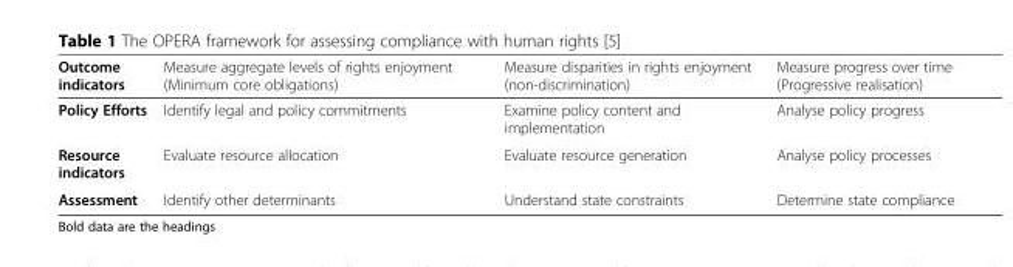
<table><thead><tr><td>Outcome indicators</td><td>Measure aggregate levels of rights enjoyment (Minimum core obligations)</td><td>Measure disparities in rights enjoyment (non-discrimination)</td><td>Measure progress over time (Progressive realisation)</td></tr></thead><tbody><tr><td>Policy Efforts</td><td>Identify legal and policy commitments</td><td>Examine policy content and implementation</td><td>Analyse policy progress</td></tr><tr><td>Resource indicators</td><td>Evaluate resource allocation</td><td>Evaluate resource generation</td><td>Analyse policy processes</td></tr><tr><td>Assessment</td><td>Identify other determinants</td><td>Understand state constraints</td><td>Determine state compliance</td></tr></tbody></table>